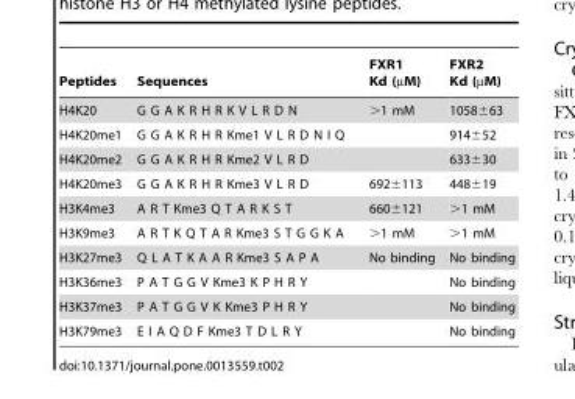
<table><thead><tr><td>Peptides</td><td>Sequences</td><td>FXR1 Kd (µM)</td><td>FXR2 Kd (µM)</td></tr></thead><tbody><tr><td>H4K20</td><td>G G A K R H R K V L R D N</td><td>&gt;1 mM</td><td>1058±63</td></tr><tr><td>H4K20me1</td><td>G G A K R H R Kme1 V L R D N I Q</td><td></td><td>914±52</td></tr><tr><td>H4K20me2</td><td>G G A K R H R Kme2 V L R D</td><td></td><td>633±30</td></tr><tr><td>H4K20me3</td><td>G G A K R H R Kme3 V L R D</td><td>692±113</td><td>448±19</td></tr><tr><td>H3K4me3</td><td>A R T Kme3 Q T A R K S T</td><td>660±121</td><td>&gt;1 mM</td></tr><tr><td>H3K9me3</td><td>A R T K Q T A R Kme3 S T G G K A</td><td>&gt;1 mM</td><td>&gt;1 mM</td></tr><tr><td>H3K27me3</td><td>Q L A T K A A R Kme3 S A P A</td><td>No binding</td><td>No binding</td></tr><tr><td>H3K36me3</td><td>P A T G G V Kme3 K P H R Y</td><td></td><td>No binding</td></tr><tr><td>H3K37me3</td><td>P A T G G V K Kme3 P H R Y</td><td></td><td>No binding</td></tr><tr><td>H3K79me3</td><td>E I A Q D F Kme3 T D L R Y</td><td></td><td>No binding</td></tr></tbody></table>